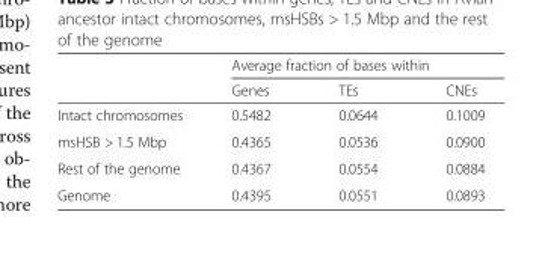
<table><thead><tr><td rowspan="2"></td><td colspan="3">Average fraction of bases within</td></tr><tr><td>Genes</td><td>TEs</td><td>CNEs</td></tr></thead><tbody><tr><td>Intact chromosomes</td><td>0.5482</td><td>0.0644</td><td>0.1009</td></tr><tr><td>msHSB &gt; 1.5 Mbp</td><td>0.4365</td><td>0.0536</td><td>0.0900</td></tr><tr><td>Rest of the genome</td><td>0.4367</td><td>0.0554</td><td>0.0884</td></tr><tr><td>Genome</td><td>0.4395</td><td>0.0551</td><td>0.0893</td></tr></tbody></table>